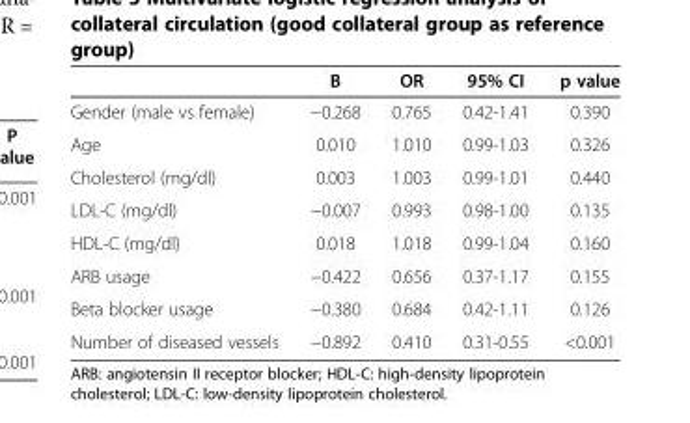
<table><thead><tr><td></td><td>B</td><td>OR</td><td>95% CI</td><td>p value</td></tr></thead><tbody><tr><td>Gender (male vs female)</td><td>−0.268</td><td>0.765</td><td>0.42-1.41</td><td>0.390</td></tr><tr><td>Age</td><td>0.010</td><td>1.010</td><td>0.99-1.03</td><td>0.326</td></tr><tr><td>Cholesterol (mg/dl)</td><td>0.003</td><td>1.003</td><td>0.99-1.01</td><td>0.440</td></tr><tr><td>LDL-C (mg/dl)</td><td>−0.007</td><td>0.993</td><td>0.98-1.00</td><td>0.135</td></tr><tr><td>HDL-C (mg/dl)</td><td>0.018</td><td>1.018</td><td>0.99-1.04</td><td>0.160</td></tr><tr><td>ARB usage</td><td>−0.422</td><td>0.656</td><td>0.37-1.17</td><td>0.155</td></tr><tr><td>Beta blocker usage</td><td>−0.380</td><td>0.684</td><td>0.42-1.11</td><td>0.126</td></tr><tr><td>Number of diseased vessels</td><td>−0.892</td><td>0.410</td><td>0.31-0.55</td><td>&lt;0.001</td></tr></tbody></table>